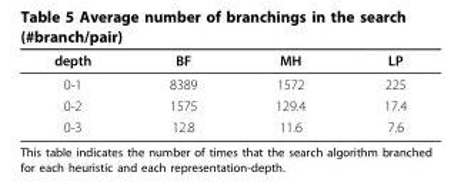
<table><thead><tr><td>depth</td><td>BF</td><td>MH</td><td>LP</td></tr></thead><tbody><tr><td>0-1</td><td>8389</td><td>1572</td><td>225</td></tr><tr><td>0-2</td><td>1575</td><td>129.4</td><td>17.4</td></tr><tr><td>0-3</td><td>12.8</td><td>11.6</td><td>7.6</td></tr></tbody></table>